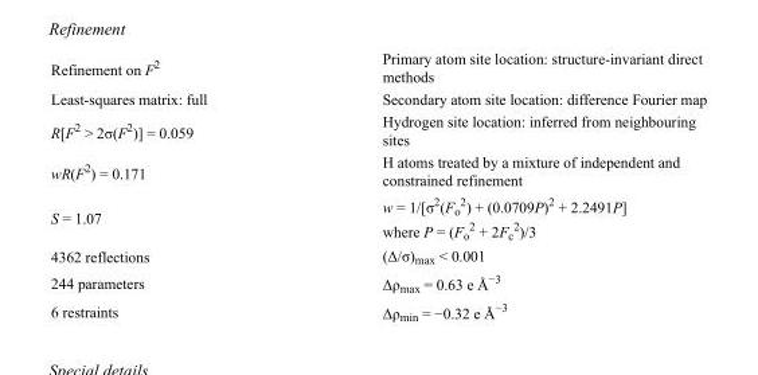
<table><tbody><tr><td>Refinement on F<sup>2</sup></td><td>Primary atom site location: structure-invariant direct methods</td></tr><tr><td>Least-squares matrix: full</td><td>Secondary atom site location: difference Fourier map</td></tr><tr><td>R[F<sup>2</sup> &gt; 2σ(F<sup>2</sup>)] = 0.059</td><td>Hydrogen site location: inferred from neighbouring sites</td></tr><tr><td>wR(F<sup>2</sup>) = 0.171</td><td>H atoms treated by a mixture of independent and constrained refinement</td></tr><tr><td>S = 1.07</td><td>w = 1/[σ<sup>2</sup>(F<sub>o</sub> <sup>2</sup>) + (0.0709P)<sup>2</sup> + 2.2491P] where P = (F<sub>o</sub> <sup>2</sup> + 2F<sub>c</sub> <sup>2</sup>)/3</td></tr><tr><td>4362 reflections</td><td>(Δ/σ)<sub>max</sub> &lt; 0.001</td></tr><tr><td>244 parameters</td><td>Δρ<sub>max</sub> = 0.63 e Å<sup>−3</sup></td></tr><tr><td>6 restraints</td><td>Δρ<sub>min</sub> = −0.32 e Å<sup>−3</sup></td></tr></tbody></table>